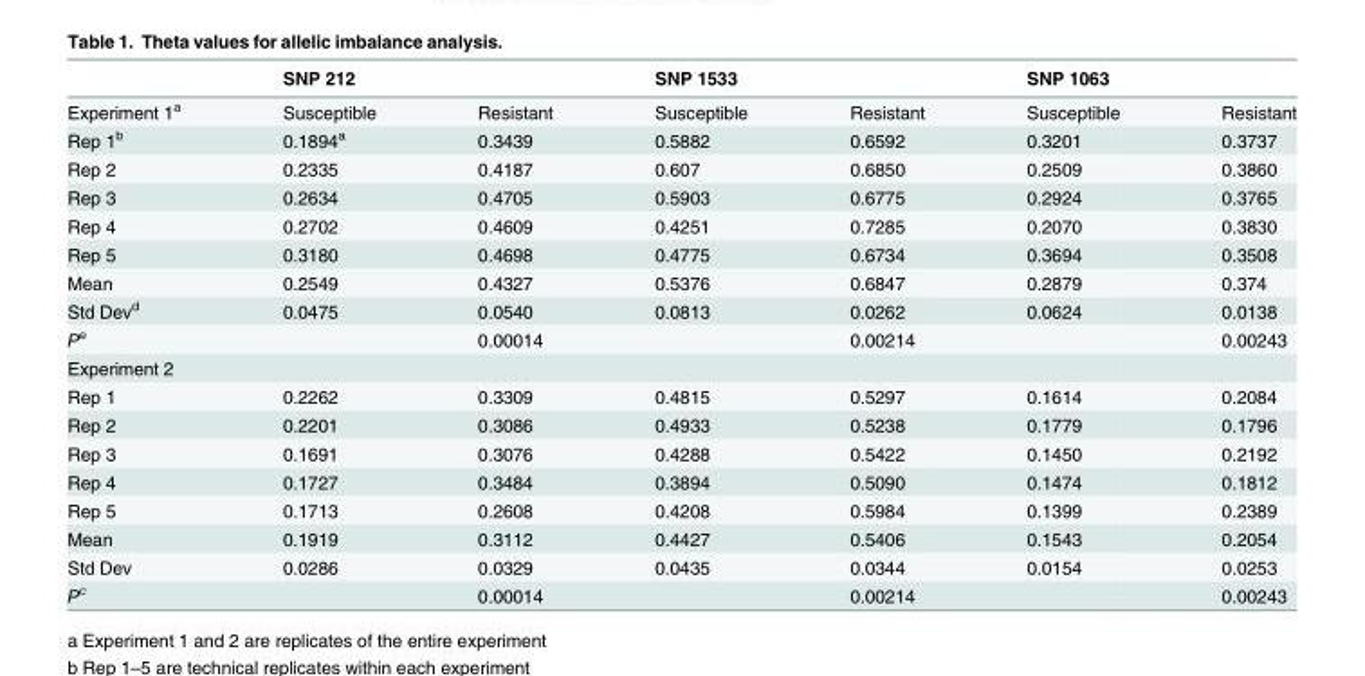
<table><thead><tr><td rowspan="2">Experiment 1<sup>a</sup></td><td colspan="2">SNP 212</td><td colspan="2">SNP 1533</td><td colspan="2">SNP 1063</td></tr><tr><td>Susceptible</td><td>Resistant</td><td>Susceptible</td><td>Resistant</td><td>Susceptible</td><td>Resistant</td></tr></thead><tbody><tr><td>Rep 1<sup>b</sup></td><td>0.1894<sup>a</sup></td><td>0.3439</td><td>0.5882</td><td>0.6592</td><td>0.3201</td><td>0.3737</td></tr><tr><td>Rep 2</td><td>0.2335</td><td>0.4187</td><td>0.607</td><td>0.6850</td><td>0.2509</td><td>0.3860</td></tr><tr><td>Rep 3</td><td>0.2634</td><td>0.4705</td><td>0.5903</td><td>0.6775</td><td>0.2924</td><td>0.3765</td></tr><tr><td>Rep 4</td><td>0.2702</td><td>0.4609</td><td>0.4251</td><td>0.7285</td><td>0.2070</td><td>0.3830</td></tr><tr><td>Rep 5</td><td>0.3180</td><td>0.4698</td><td>0.4775</td><td>0.6734</td><td>0.3694</td><td>0.3508</td></tr><tr><td>Mean</td><td>0.2549</td><td>0.4327</td><td>0.5376</td><td>0.6847</td><td>0.2879</td><td>0.374</td></tr><tr><td>Std Dev<sup>d</sup></td><td>0.0475</td><td>0.0540</td><td>0.0813</td><td>0.0262</td><td>0.0624</td><td>0.0138</td></tr><tr><td>P<sup>e</sup></td><td></td><td>0.00014</td><td></td><td>0.00214</td><td></td><td>0.00243</td></tr><tr><td colspan="7">Experiment 2</td></tr><tr><td>Rep 1</td><td>0.2262</td><td>0.3309</td><td>0.4815</td><td>0.5297</td><td>0.1614</td><td>0.2084</td></tr><tr><td>Rep 2</td><td>0.2201</td><td>0.3086</td><td>0.4933</td><td>0.5238</td><td>0.1779</td><td>0.1796</td></tr><tr><td>Rep 3</td><td>0.1691</td><td>0.3076</td><td>0.4288</td><td>0.5422</td><td>0.1450</td><td>0.2192</td></tr><tr><td>Rep 4</td><td>0.1727</td><td>0.3484</td><td>0.3894</td><td>0.5090</td><td>0.1474</td><td>0.1812</td></tr><tr><td>Rep 5</td><td>0.1713</td><td>0.2608</td><td>0.4208</td><td>0.5984</td><td>0.1399</td><td>0.2389</td></tr><tr><td>Mean</td><td>0.1919</td><td>0.3112</td><td>0.4427</td><td>0.5406</td><td>0.1543</td><td>0.2054</td></tr><tr><td>Std Dev</td><td>0.0286</td><td>0.0329</td><td>0.0435</td><td>0.0344</td><td>0.0154</td><td>0.0253</td></tr><tr><td>P<sup>c</sup></td><td></td><td>0.00014</td><td></td><td>0.00214</td><td></td><td>0.00243</td></tr></tbody></table>